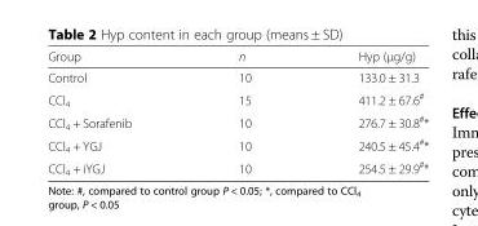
<table><thead><tr><td>Group</td><td>n</td><td>Hyp (μg/g)</td></tr></thead><tbody><tr><td>Control</td><td>10</td><td>133.0 ± 31.3</td></tr><tr><td>CCl<sub>4</sub></td><td>15</td><td>411.2 ± 67.6<sup>#</sup></td></tr><tr><td>CCl<sub>4</sub> + Sorafenib</td><td>10</td><td>276.7 ± 30.8<sup>#</sup>*</td></tr><tr><td>CCl<sub>4</sub> + YGJ</td><td>10</td><td>240.5 ± 45.4<sup>#</sup>*</td></tr><tr><td>CCl<sub>4</sub> + iYGJ</td><td>10</td><td>254.5 ± 29.9<sup>#</sup>*</td></tr></tbody></table>